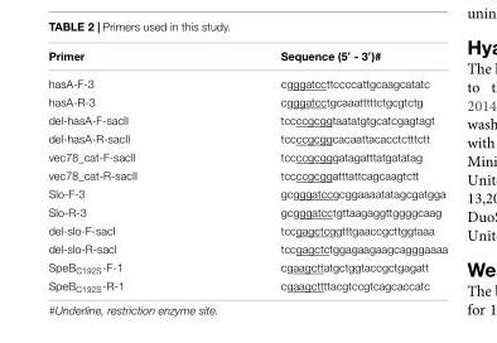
<table><thead><tr><td>Primer</td><td>Sequence (5′ - 3′)#</td></tr></thead><tbody><tr><td>hasA-F-3</td><td>cgggatccttccccattgcaagcatatc</td></tr><tr><td>hasA-R-3</td><td>cgggatcctgcaaatttttctgcgtctg</td></tr><tr><td>del-hasA-F-sacII</td><td>tccccgcggtaatatgtgcatcgagtagt</td></tr><tr><td>del-hasA-R-sacII</td><td>tccccgcggcacaattacacctctttctt</td></tr><tr><td>vec78_cat-F-sacII</td><td>tccccgcgggatagatttatgatatag</td></tr><tr><td>vec78_cat-R-sacII</td><td>tccccgcggatttattcagcaagtctt</td></tr><tr><td>Slo-F-3</td><td>gcgggatccgcggaaaatatagcgatgga</td></tr><tr><td>Slo-R-3</td><td>gcgggatcctgttaagaggttggggcaag</td></tr><tr><td>del-slo-F-sacI</td><td>tccgagctcggtttgaaccgcttggtaaa</td></tr><tr><td>del-slo-R-sacI</td><td>tccgagctctggagaagaagcagggaaaa</td></tr><tr><td>SpeB<sub>C192S</sub>-F-1</td><td>cgaagcttatgctggtaccgctgagatt</td></tr><tr><td>SpeB<sub>C192S</sub>-R-1</td><td>cgaagcttttacgtccgtcagcaccatc</td></tr></tbody></table>